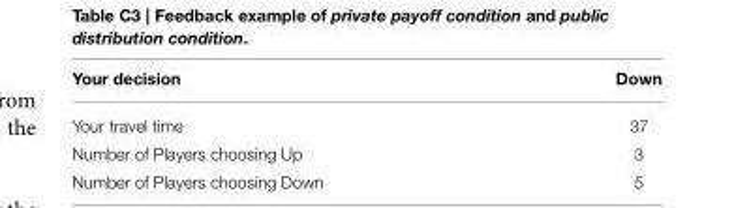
<table><thead><tr><td>Your decision</td><td>Down</td></tr></thead><tbody><tr><td>Your travel time</td><td>37</td></tr></tbody></table>